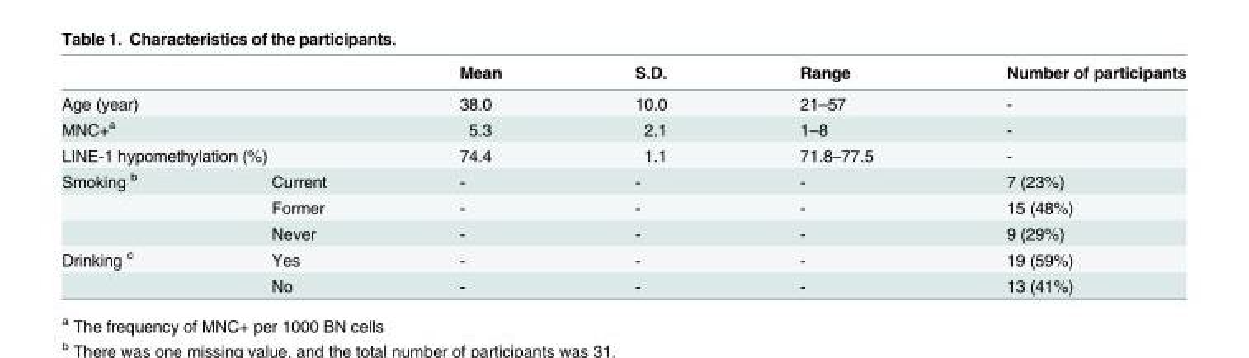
<table><thead><tr><td></td><td></td><td>Mean</td><td>S.D.</td><td>Range</td><td>Number of participants</td></tr></thead><tbody><tr><td>Age (year)</td><td></td><td>38.0</td><td>10.0</td><td>21–57</td><td>-</td></tr><tr><td>MNC+<sup>a</sup></td><td></td><td>5.3</td><td>2.1</td><td>1–8</td><td>-</td></tr><tr><td colspan="2">LINE-1 hypomethylation (%)</td><td>74.4</td><td>1.1</td><td>71.8–77.5</td><td>-</td></tr><tr><td rowspan="3">Smoking <sup>b</sup></td><td>Current</td><td>-</td><td>-</td><td>-</td><td>7 (23%)</td></tr><tr><td>Former</td><td>-</td><td>-</td><td>-</td><td>15 (48%)</td></tr><tr><td>Never</td><td>-</td><td>-</td><td>-</td><td>9 (29%)</td></tr><tr><td rowspan="2">Drinking <sup>c</sup></td><td>Yes</td><td>-</td><td>-</td><td>-</td><td>19 (59%)</td></tr><tr><td>No</td><td>-</td><td>-</td><td>-</td><td>13 (41%)</td></tr></tbody></table>